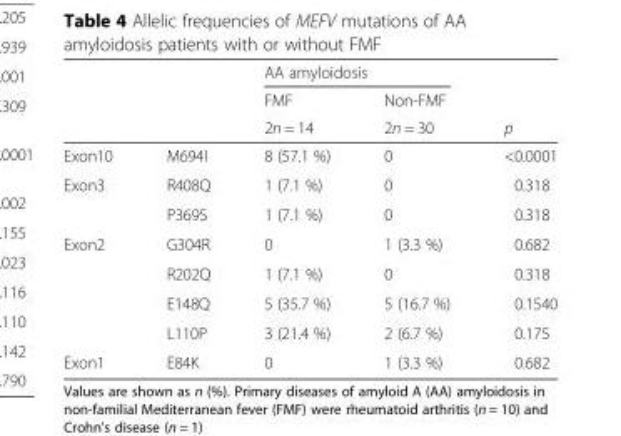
<table><thead><tr><td rowspan="3"></td><td rowspan="3"></td><td colspan="2">AA amyloidosis</td><td rowspan="3">p</td></tr><tr><td rowspan="2">FMF 2n = 14</td><td rowspan="2">Non-FMF 2n = 30</td></tr><tr></tr></thead><tbody><tr><td>Exon10</td><td>M694I</td><td>8 (57.1 %)</td><td>0</td><td>&lt;0.0001</td></tr><tr><td rowspan="2">Exon3</td><td>R408Q</td><td>1 (7.1 %)</td><td>0</td><td>0.318</td></tr><tr><td>P369S</td><td>1 (7.1 %)</td><td>0</td><td>0.318</td></tr><tr><td rowspan="4">Exon2</td><td>G304R</td><td>0</td><td>1 (3.3 %)</td><td>0.682</td></tr><tr><td>R202Q</td><td>1 (7.1 %)</td><td>0</td><td>0.318</td></tr><tr><td>E148Q</td><td>5 (35.7 %)</td><td>5 (16.7 %)</td><td>0.1540</td></tr><tr><td>L110P</td><td>3 (21.4 %)</td><td>2 (6.7 %)</td><td>0.175</td></tr><tr><td>Exon1</td><td>E84K</td><td>0</td><td>1 (3.3 %)</td><td>0.682</td></tr></tbody></table>